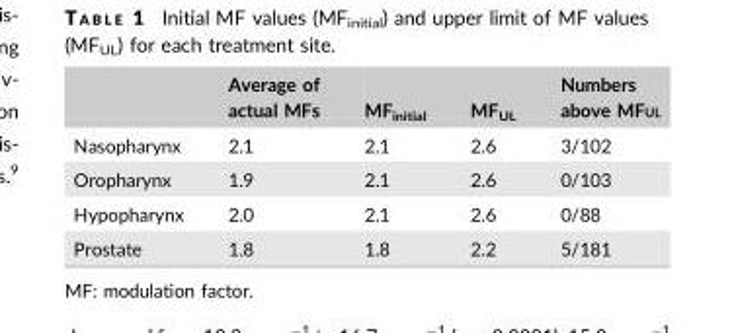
<table><thead><tr><td></td><td>Average of actual MFs</td><td>MF<sub>initial</sub></td><td>MF<sub>UL</sub></td><td>Numbers above MFUL</td></tr></thead><tbody><tr><td>Nasopharynx</td><td>2.1</td><td>2.1</td><td>2.6</td><td>3/102</td></tr><tr><td>Oropharynx</td><td>1.9</td><td>2.1</td><td>2.6</td><td>0/103</td></tr><tr><td>Hypopharynx</td><td>2.0</td><td>2.1</td><td>2.6</td><td>0/88</td></tr><tr><td>Prostate</td><td>1.8</td><td>1.8</td><td>2.2</td><td>5/181</td></tr></tbody></table>